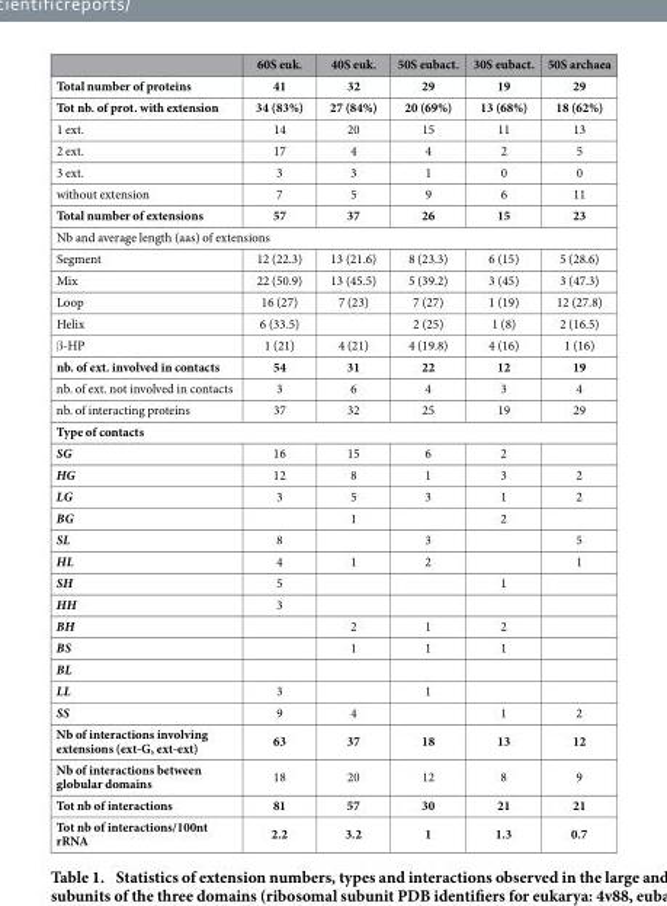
<table><thead><tr><td></td><td>60S euk.</td><td>40S euk.</td><td>50S eubact.</td><td>30S eubact.</td><td>50S archaea</td></tr></thead><tbody><tr><td>Total number of proteins</td><td>41</td><td>32</td><td>29</td><td>19</td><td>29</td></tr><tr><td>Tot nb. of prot. with extension</td><td>34 (83%)</td><td>27 (84%)</td><td>20 (69%)</td><td>13 (68%)</td><td>18 (62%)</td></tr><tr><td>1 ext.</td><td>14</td><td>20</td><td>15</td><td>11</td><td>13</td></tr><tr><td>2 ext.</td><td>17</td><td>4</td><td>4</td><td>2</td><td>5</td></tr><tr><td>3 ext.</td><td>3</td><td>3</td><td>1</td><td>0</td><td>0</td></tr><tr><td>without extension</td><td>7</td><td>5</td><td>9</td><td>6</td><td>11</td></tr><tr><td>Total number of extensions</td><td>57</td><td>37</td><td>26</td><td>15</td><td>23</td></tr><tr><td colspan="6">Nb and average length (aas) of extensions</td></tr><tr><td>Segment</td><td>12 (22.3)</td><td>13 (21.6)</td><td>8 (23.3)</td><td>6 (15)</td><td>5 (28.6)</td></tr><tr><td>Mix</td><td>22 (50.9)</td><td>13 (45.5)</td><td>5 (39.2)</td><td>3 (45)</td><td>3 (47.3)</td></tr><tr><td>Loop</td><td>16 (27)</td><td>7 (23)</td><td>7 (27)</td><td>1 (19)</td><td>12 (27.8)</td></tr><tr><td>Helix</td><td>6 (33.5)</td><td></td><td>2 (25)</td><td>1 (8)</td><td>2 (16.5)</td></tr><tr><td>β -HP</td><td>1 (21)</td><td>4 (21)</td><td>4 (19.8)</td><td>4 (16)</td><td>1 (16)</td></tr><tr><td>nb. of ext. involved in contacts</td><td>54</td><td>31</td><td>22</td><td>12</td><td>19</td></tr><tr><td>nb. of ext. not involved in contacts</td><td>3</td><td>6</td><td>4</td><td>3</td><td>4</td></tr><tr><td>nb. of interacting proteins</td><td>37</td><td>32</td><td>25</td><td>19</td><td>29</td></tr><tr><td colspan="6">Type of contacts</td></tr><tr><td>SG</td><td>16</td><td>15</td><td>6</td><td>2</td><td></td></tr><tr><td>HG</td><td>12</td><td>8</td><td>1</td><td>3</td><td>2</td></tr><tr><td>LG</td><td>3</td><td>5</td><td>3</td><td>1</td><td>2</td></tr><tr><td>BG</td><td></td><td>1</td><td></td><td>2</td><td></td></tr><tr><td>SL</td><td>8</td><td></td><td>3</td><td></td><td>5</td></tr><tr><td>HL</td><td>4</td><td>1</td><td>2</td><td></td><td>1</td></tr><tr><td>SH</td><td>5</td><td></td><td></td><td>1</td><td></td></tr><tr><td>HH</td><td>3</td><td></td><td></td><td></td><td></td></tr><tr><td>BH</td><td></td><td>2</td><td>1</td><td>2</td><td></td></tr><tr><td>BS</td><td></td><td>1</td><td>1</td><td>1</td><td></td></tr><tr><td colspan="6">BL</td></tr><tr><td>LL</td><td>3</td><td></td><td>1</td><td></td><td></td></tr><tr><td>SS</td><td>9</td><td>4</td><td></td><td>1</td><td>2</td></tr><tr><td>Nb of interactions involving extensions (ext-G, ext-ext)</td><td>63</td><td>37</td><td>18</td><td>13</td><td>12</td></tr><tr><td>Nb of interactions between globular domains</td><td>18</td><td>20</td><td>12</td><td>8</td><td>9</td></tr><tr><td>Tot nb of interactions</td><td>81</td><td>57</td><td>30</td><td>21</td><td>21</td></tr><tr><td>Tot nb of interactions/100nt rRNA</td><td>2.2</td><td>3.2</td><td>1</td><td>1.3</td><td>0.7</td></tr></tbody></table>